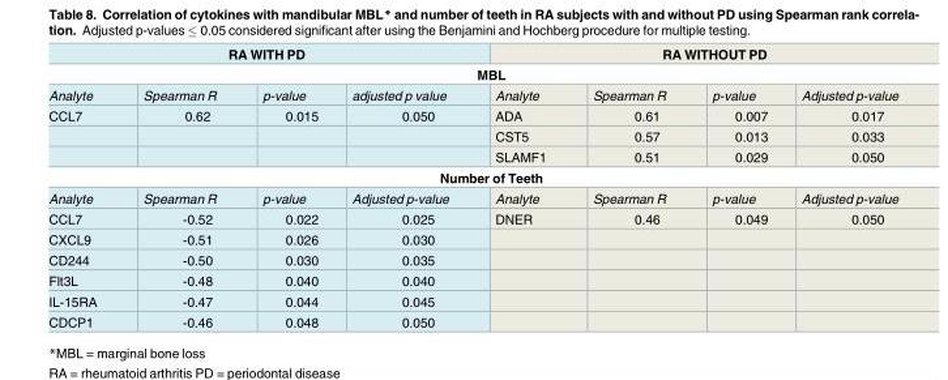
<table><thead><tr><td colspan="4">RA WITH PD</td><td colspan="4">RA WITHOUT PD</td></tr><tr><td colspan="8">MBL</td></tr><tr><td>Analyte</td><td>Spearman R</td><td>p-value</td><td>adjusted p value</td><td>Analyte</td><td>Spearman R</td><td>p-value</td><td>Adjusted p-value</td></tr></thead><tbody><tr><td rowspan="3">CCL7</td><td>0.62</td><td>0.015</td><td>0.050</td><td>ADA</td><td>0.61</td><td>0.007</td><td>0.017</td></tr><tr><td></td><td></td><td></td><td>CST5</td><td>0.57</td><td>0.013</td><td>0.033</td></tr><tr><td></td><td></td><td></td><td>SLAMF1</td><td>0.51</td><td>0.029</td><td>0.050</td></tr><tr><td colspan="8">Number of Teeth</td></tr><tr><td>Analyte</td><td>Spearman R</td><td>p-value</td><td>Adjusted p-value</td><td>Analyte</td><td>Spearman R</td><td>p-value</td><td>Adjusted p-value</td></tr><tr><td>CCL7</td><td>-0.52</td><td>0.022</td><td>0.025</td><td>DNER</td><td>0.46</td><td>0.049</td><td>0.050</td></tr><tr><td>CXCL9</td><td>-0.51</td><td>0.026</td><td>0.030</td><td></td><td></td><td></td><td></td></tr><tr><td>CD244</td><td>-0.50</td><td>0.030</td><td>0.035</td><td></td><td></td><td></td><td></td></tr><tr><td>Flt3L</td><td>-0.48</td><td>0.040</td><td>0.040</td><td></td><td></td><td></td><td></td></tr><tr><td>IL-15RA</td><td>-0.47</td><td>0.044</td><td>0.045</td><td></td><td></td><td></td><td></td></tr><tr><td>CDCP1</td><td>-0.46</td><td>0.048</td><td>0.050</td><td></td><td></td><td></td><td></td></tr></tbody></table>